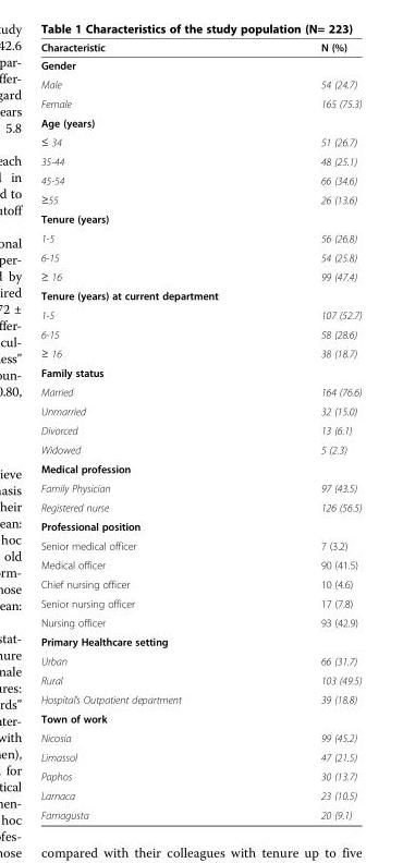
<table><thead><tr><td>Characteristic</td><td>Ν (%)</td></tr></thead><tbody><tr><td colspan="2">Gender</td></tr><tr><td>Male</td><td>54 (24.7)</td></tr><tr><td>Female</td><td>165 (75.3)</td></tr><tr><td colspan="2">Age (years)</td></tr><tr><td>≤ 34</td><td>51 (26.7)</td></tr><tr><td>35-44</td><td>48 (25.1)</td></tr><tr><td>45-54</td><td>66 (34.6)</td></tr><tr><td>≥55</td><td>26 (13.6)</td></tr><tr><td colspan="2">Tenure (years)</td></tr><tr><td>1-5</td><td>56 (26.8)</td></tr><tr><td>6-15</td><td>54 (25.8)</td></tr><tr><td>≥ 16</td><td>99 (47.4)</td></tr><tr><td colspan="2">Tenure (years) at current department</td></tr><tr><td>1-5</td><td>107 (52.7)</td></tr><tr><td>6-15</td><td>58 (28.6)</td></tr><tr><td>≥ 16</td><td>38 (18.7)</td></tr><tr><td colspan="2">Family status</td></tr><tr><td>Married</td><td>164 (76.6)</td></tr><tr><td>Unmarried</td><td>32 (15.0)</td></tr><tr><td>Divorced</td><td>13 (6.1)</td></tr><tr><td>Widowed</td><td>5 (2.3)</td></tr><tr><td colspan="2">Medical profession</td></tr><tr><td>Family Physician</td><td>97 (43.5)</td></tr><tr><td>Registered nurse</td><td>126 (56.5)</td></tr><tr><td colspan="2">Professional position</td></tr><tr><td>Senior medical officer</td><td>7 (3.2)</td></tr><tr><td>Medical officer</td><td>90 (41.5)</td></tr><tr><td>Chief nursing officer</td><td>10 (4.6)</td></tr><tr><td>Senior nursing officer</td><td>17 (7.8)</td></tr><tr><td>Nursing officer</td><td>93 (42.9)</td></tr><tr><td colspan="2">Primary Healthcare setting</td></tr><tr><td>Urban</td><td>66 (31.7)</td></tr><tr><td>Rural</td><td>103 (49.5)</td></tr><tr><td>Hospital’s Outpatient department</td><td>39 (18.8)</td></tr><tr><td colspan="2">Town of work</td></tr><tr><td>Nicosia</td><td>99 (45.2)</td></tr><tr><td>Limassol</td><td>47 (21.5)</td></tr><tr><td>Paphos</td><td>30 (13.7)</td></tr><tr><td>Larnaca</td><td>23 (10.5)</td></tr><tr><td>Famagusta</td><td>20 (9.1)</td></tr></tbody></table>